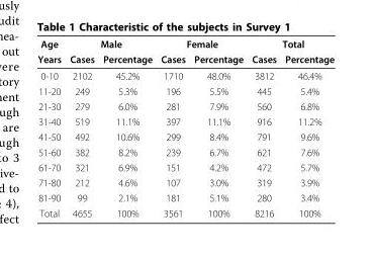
<table><thead><tr><td rowspan="2">Age Years</td><td colspan="2">Male</td><td colspan="2">Female</td><td colspan="2">Total</td></tr><tr><td>Cases</td><td>Percentage</td><td>Cases</td><td>Percentage</td><td>Cases</td><td>Percentage</td></tr></thead><tbody><tr><td>0-10</td><td>2102</td><td>45.2%</td><td>1710</td><td>48.0%</td><td>3812</td><td>46.4%</td></tr><tr><td>11-20</td><td>249</td><td>5.3%</td><td>196</td><td>5.5%</td><td>445</td><td>5.4%</td></tr><tr><td>21-30</td><td>279</td><td>6.0%</td><td>281</td><td>7.9%</td><td>560</td><td>6.8%</td></tr><tr><td>31-40</td><td>519</td><td>11.1%</td><td>397</td><td>11.1%</td><td>916</td><td>11.2%</td></tr><tr><td>41-50</td><td>492</td><td>10.6%</td><td>299</td><td>8.4%</td><td>791</td><td>9.6%</td></tr><tr><td>51-60</td><td>382</td><td>8.2%</td><td>239</td><td>6.7%</td><td>621</td><td>7.6%</td></tr><tr><td>61-70</td><td>321</td><td>6.9%</td><td>151</td><td>4.2%</td><td>472</td><td>5.7%</td></tr><tr><td>71-80</td><td>212</td><td>4.6%</td><td>107</td><td>3.0%</td><td>319</td><td>3.9%</td></tr><tr><td>81-90</td><td>99</td><td>2.1%</td><td>181</td><td>5.1%</td><td>280</td><td>3.4%</td></tr><tr><td>Total</td><td>4655</td><td>100%</td><td>3561</td><td>100%</td><td>8216</td><td>100%</td></tr></tbody></table>